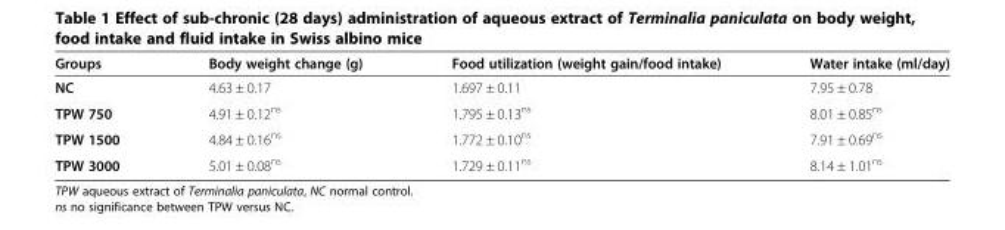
<table><thead><tr><td>Groups</td><td>Body weight change (g)</td><td>Food utilization (weight gain/food intake)</td><td>Water intake (ml/day)</td></tr></thead><tbody><tr><td>NC</td><td>4.63 ± 0.17</td><td>1.697 ± 0.11</td><td>7.95 ± 0.78</td></tr><tr><td>TPW 750</td><td>4.91 ± 0.12<sup>ns</sup></td><td>1.795 ± 0.13<sup>ns</sup></td><td>8.01 ± 0.85<sup>ns</sup></td></tr><tr><td>TPW 1500</td><td>4.84 ± 0.16<sup>ns</sup></td><td>1.772 ± 0.10<sup>ns</sup></td><td>7.91 ± 0.69<sup>ns</sup></td></tr><tr><td>TPW 3000</td><td>5.01 ± 0.08<sup>ns</sup></td><td>1.729 ± 0.11<sup>ns</sup></td><td>8.14 ± 1.01<sup>ns</sup></td></tr></tbody></table>